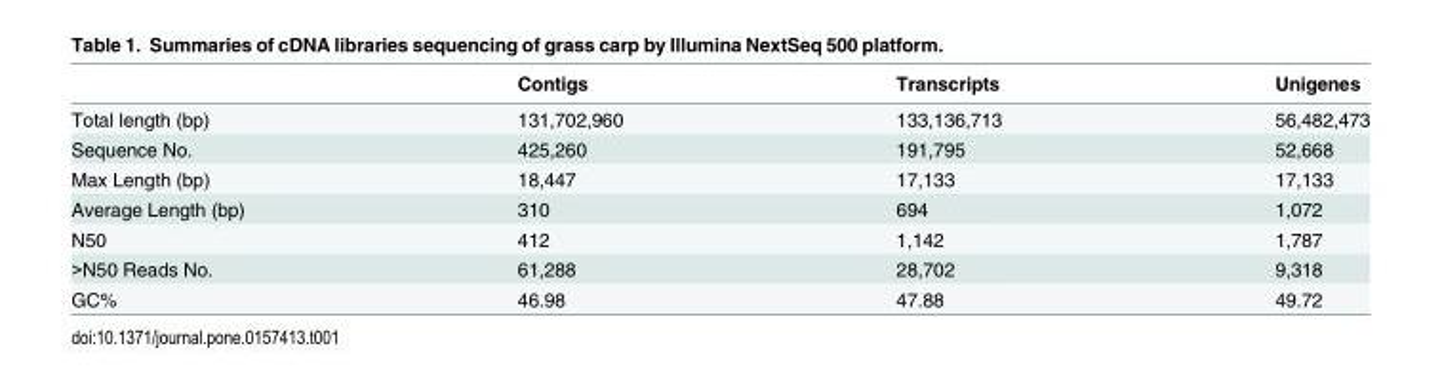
<table><thead><tr><td></td><td>Contigs</td><td>Transcripts</td><td>Unigenes</td></tr></thead><tbody><tr><td>Total length (bp)</td><td>131,702,960</td><td>133,136,713</td><td>56,482,473</td></tr><tr><td>Sequence No.</td><td>425,260</td><td>191,795</td><td>52,668</td></tr><tr><td>Max Length (bp)</td><td>18,447</td><td>17,133</td><td>17,133</td></tr><tr><td>Average Length (bp)</td><td>310</td><td>694</td><td>1,072</td></tr><tr><td>N50</td><td>412</td><td>1,142</td><td>1,787</td></tr><tr><td>&gt;N50 Reads No.</td><td>61,288</td><td>28,702</td><td>9,318</td></tr><tr><td>GC%</td><td>46.98</td><td>47.88</td><td>49.72</td></tr></tbody></table>